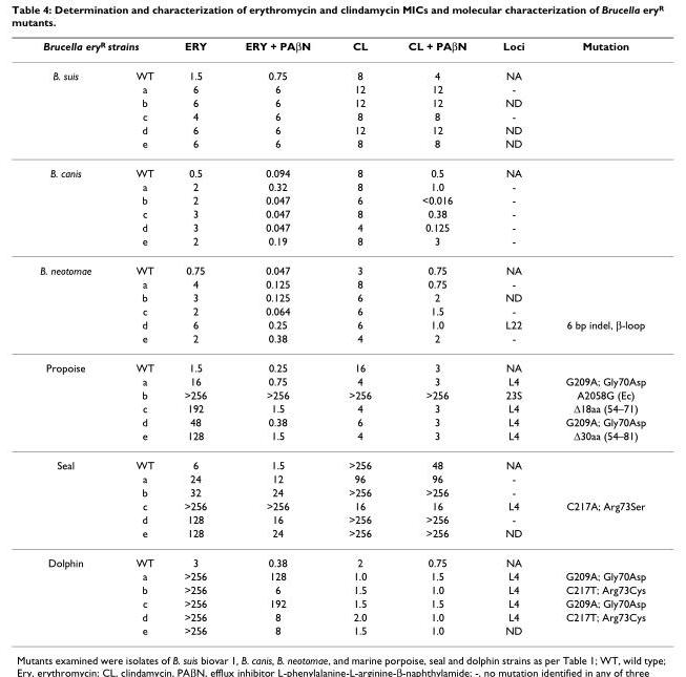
<table><thead><tr><td colspan="2">Brucella eryR strains</td><td rowspan="2">ERY 1.5</td><td rowspan="2">ERY + PAβN 0.75</td><td rowspan="2">CL 8</td><td rowspan="2">CL + PAβN 4</td><td rowspan="2">Loci NA</td><td rowspan="2">Mutation</td></tr><tr><td>B. suis</td><td>WT</td></tr></thead><tbody><tr><td></td><td>a</td><td>6</td><td>6</td><td>12</td><td>12</td><td>-</td><td></td></tr><tr><td></td><td>b</td><td>6</td><td>6</td><td>12</td><td>12</td><td>ND</td><td></td></tr><tr><td></td><td>c</td><td>4</td><td>6</td><td>8</td><td>8</td><td>-</td><td></td></tr><tr><td></td><td>d</td><td>6</td><td>6</td><td>12</td><td>12</td><td>ND</td><td></td></tr><tr><td></td><td>e</td><td>6</td><td>6</td><td>8</td><td>8</td><td>ND</td><td></td></tr><tr><td rowspan="6">B. canis</td><td>WT</td><td>0.5</td><td>0.094</td><td>8</td><td>0.5</td><td>NA</td><td></td></tr><tr><td>a</td><td>2</td><td>0.32</td><td>8</td><td>1.0</td><td>-</td><td></td></tr><tr><td>b</td><td>2</td><td>0.047</td><td>6</td><td>&lt;0.016</td><td>-</td><td></td></tr><tr><td>c</td><td>3</td><td>0.047</td><td>8</td><td>0.38</td><td>-</td><td></td></tr><tr><td>d</td><td>3</td><td>0.047</td><td>4</td><td>0.125</td><td>-</td><td></td></tr><tr><td>e</td><td>2</td><td>0.19</td><td>8</td><td>3</td><td>-</td><td></td></tr><tr><td rowspan="6">B. neotomae</td><td>WT</td><td>0.75</td><td>0.047</td><td>3</td><td>0.75</td><td>NA</td><td></td></tr><tr><td>a</td><td>4</td><td>0.125</td><td>8</td><td>0.75</td><td>-</td><td></td></tr><tr><td>b</td><td>3</td><td>0.125</td><td>6</td><td>2</td><td>ND</td><td></td></tr><tr><td>c</td><td>2</td><td>0.064</td><td>6</td><td>1.5</td><td>-</td><td></td></tr><tr><td>d</td><td>6</td><td>0.25</td><td>6</td><td>1.0</td><td>L22</td><td>6 bp indel, β-loop</td></tr><tr><td>e</td><td>2</td><td>0.38</td><td>4</td><td>2</td><td>-</td><td></td></tr><tr><td rowspan="6">Propoise</td><td>WT</td><td>1.5</td><td>0.25</td><td>16</td><td>3</td><td>NA</td><td></td></tr><tr><td>a</td><td>16</td><td>0.75</td><td>4</td><td>3</td><td>L4</td><td>G209A; Gly70Asp</td></tr><tr><td>b</td><td>&gt;256</td><td>&gt;256</td><td>&gt;256</td><td>&gt;256</td><td>23S</td><td>A2058G (Ec)</td></tr><tr><td>c</td><td>192</td><td>1.5</td><td>4</td><td>3</td><td>L4</td><td>Δ18aa (54–71)</td></tr><tr><td>d</td><td>48</td><td>0.38</td><td>6</td><td>3</td><td>L4</td><td>G209A; Gly70Asp</td></tr><tr><td>e</td><td>128</td><td>1.5</td><td>4</td><td>3</td><td>L4</td><td>Δ30aa (54–81)</td></tr><tr><td rowspan="6">Seal</td><td>WT</td><td>6</td><td>1.5</td><td>&gt;256</td><td>48</td><td>NA</td><td></td></tr><tr><td>a</td><td>24</td><td>12</td><td>96</td><td>96</td><td>-</td><td></td></tr><tr><td>b</td><td>32</td><td>24</td><td>&gt;256</td><td>&gt;256</td><td>-</td><td></td></tr><tr><td>c</td><td>&gt;256</td><td>&gt;256</td><td>16</td><td>16</td><td>L4</td><td>C217A; Arg73Ser</td></tr><tr><td>d</td><td>128</td><td>16</td><td>&gt;256</td><td>&gt;256</td><td>-</td><td></td></tr><tr><td>e</td><td>128</td><td>24</td><td>&gt;256</td><td>&gt;256</td><td>ND</td><td></td></tr><tr><td rowspan="6">Dolphin</td><td>WT</td><td>3</td><td>0.38</td><td>2</td><td>0.75</td><td>NA</td><td></td></tr><tr><td>a</td><td>&gt;256</td><td>128</td><td>1.0</td><td>1.5</td><td>L4</td><td>G209A; Gly70Asp</td></tr><tr><td>b</td><td>&gt;256</td><td>6</td><td>1.5</td><td>1.0</td><td>L4</td><td>C217T; Arg73Cys</td></tr><tr><td>c</td><td>&gt;256</td><td>192</td><td>1.5</td><td>1.5</td><td>L4</td><td>G209A; Gly70Asp</td></tr><tr><td>d</td><td>&gt;256</td><td>8</td><td>2.0</td><td>1.0</td><td>L4</td><td>C217T; Arg73Cys</td></tr><tr><td>e</td><td>&gt;256</td><td>8</td><td>1.5</td><td>1.0</td><td>ND</td><td></td></tr></tbody></table>